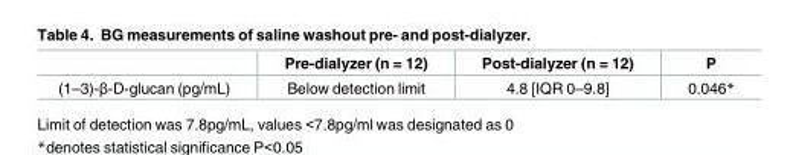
<table><thead><tr><td></td><td>Pre-dialyzer (n = 12)</td><td>Post-dialyzer (n = 12)</td><td>P</td></tr></thead><tbody><tr><td>(1–3)-β-D-glucan (pg/mL)</td><td>Below detection limit</td><td>4.8 [IQR 0–9.8]</td><td>0.046*</td></tr></tbody></table>